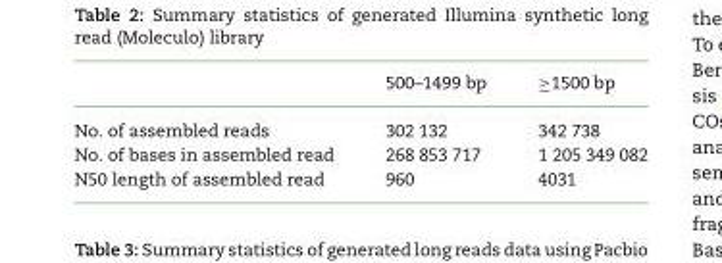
<table><thead><tr><td></td><td>500–1499 bp</td><td>≥1500 bp</td></tr></thead><tbody><tr><td>No. of assembled reads</td><td>302 132</td><td>342 738</td></tr><tr><td>No. of bases in assembled read</td><td>268 853 717</td><td>1 205 349 082</td></tr><tr><td>N50 length of assembled read</td><td>960</td><td>4031</td></tr></tbody></table>